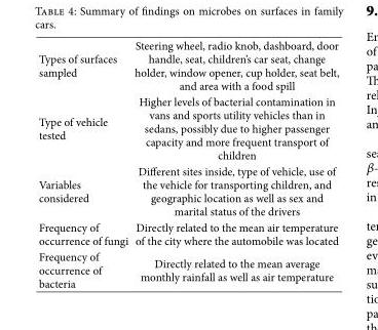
<table><tbody><tr><td>Types of surfaces sampled</td><td>Steering wheel, radio knob, dashboard, door handle, seat, children’s car seat, change holder, window opener, cup holder, seat belt, and area with a food spill</td></tr><tr><td>Type of vehicle tested</td><td>Higher levels of bacterial contamination in vans and sports utility vehicles than in sedans, possibly due to higher passenger capacity and more frequent transport of children</td></tr><tr><td>Variables considered</td><td>Different sites inside, type of vehicle, use of the vehicle for transporting children, and geographic location as well as sex and marital status of the drivers</td></tr><tr><td>Frequency of occurrence of fungi</td><td>Directly related to the mean air temperature of the city where the automobile was located</td></tr><tr><td>Frequency of occurrence of bacteria</td><td>Directly related to the mean average monthly rainfall as well as air temperature</td></tr></tbody></table>